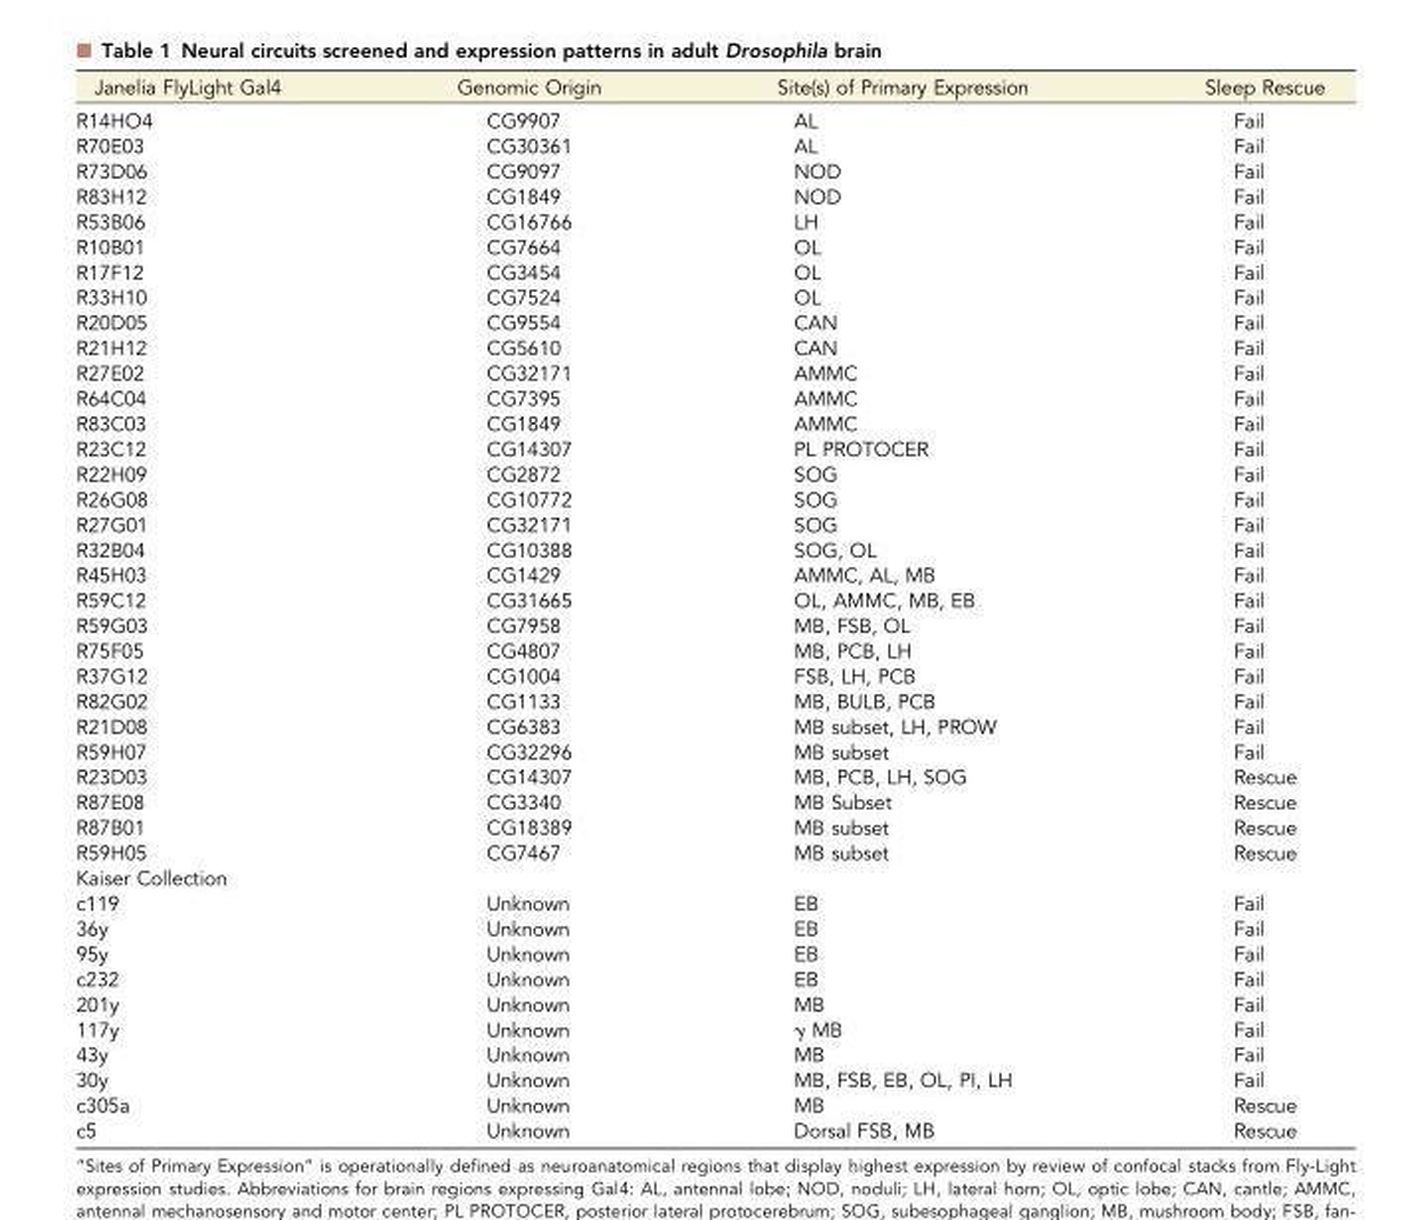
<table><thead><tr><td>Janelia FlyLight Gal4</td><td>Genomic Origin</td><td>Site(s) of Primary Expression</td><td>Sleep Rescue</td></tr></thead><tbody><tr><td>R14HO4</td><td>CG9907</td><td>AL</td><td>Fail</td></tr><tr><td>R70E03</td><td>CG30361</td><td>AL</td><td>Fail</td></tr><tr><td>R73D06</td><td>CG9097</td><td>NOD</td><td>Fail</td></tr><tr><td>R83H12</td><td>CG1849</td><td>NOD</td><td>Fail</td></tr><tr><td>R53B06</td><td>CG16766</td><td>LH</td><td>Fail</td></tr><tr><td>R10B01</td><td>CG7664</td><td>OL</td><td>Fail</td></tr><tr><td>R17F12</td><td>CG3454</td><td>OL</td><td>Fail</td></tr><tr><td>R33H10</td><td>CG7524</td><td>OL</td><td>Fail</td></tr><tr><td>R20D05</td><td>CG9554</td><td>CAN</td><td>Fail</td></tr><tr><td>R21H12</td><td>CG5610</td><td>CAN</td><td>Fail</td></tr><tr><td>R27E02</td><td>CG32171</td><td>AMMC</td><td>Fail</td></tr><tr><td>R64C04</td><td>CG7395</td><td>AMMC</td><td>Fail</td></tr><tr><td>R83C03</td><td>CG1849</td><td>AMMC</td><td>Fail</td></tr><tr><td>R23C12</td><td>CG14307</td><td>PL PROTOCER</td><td>Fail</td></tr><tr><td>R22H09</td><td>CG2872</td><td>SOG</td><td>Fail</td></tr><tr><td>R26G08</td><td>CG10772</td><td>SOG</td><td>Fail</td></tr><tr><td>R27G01</td><td>CG32171</td><td>SOG</td><td>Fail</td></tr><tr><td>R32B04</td><td>CG10388</td><td>SOG, OL</td><td>Fail</td></tr><tr><td>R45H03</td><td>CG1429</td><td>AMMC, AL, MB</td><td>Fail</td></tr><tr><td>R59C12</td><td>CG31665</td><td>OL, AMMC, MB, EB</td><td>Fail</td></tr><tr><td>R59G03</td><td>CG7958</td><td>MB, FSB, OL</td><td>Fail</td></tr><tr><td>R75F05</td><td>CG4807</td><td>MB, PCB, LH</td><td>Fail</td></tr><tr><td>R37G12</td><td>CG1004</td><td>FSB, LH, PCB</td><td>Fail</td></tr><tr><td>R82G02</td><td>CG1133</td><td>MB, BULB, PCB</td><td>Fail</td></tr><tr><td>R21D08</td><td>CG6383</td><td>MB subset, LH, PROW</td><td>Fail</td></tr><tr><td>R59H07</td><td>CG32296</td><td>MB subset</td><td>Fail</td></tr><tr><td>R23D03</td><td>CG14307</td><td>MB, PCB, LH, SOG</td><td>Rescue</td></tr><tr><td>R87E08</td><td>CG3340</td><td>MB Subset</td><td>Rescue</td></tr><tr><td>R87B01</td><td>CG18389</td><td>MB subset</td><td>Rescue</td></tr><tr><td>R59H05</td><td>CG7467</td><td>MB subset</td><td>Rescue</td></tr><tr><td colspan="4">Kaiser Collection</td></tr><tr><td>c119</td><td>Unknown</td><td>EB</td><td>Fail</td></tr><tr><td>36y</td><td>Unknown</td><td>EB</td><td>Fail</td></tr><tr><td>95y</td><td>Unknown</td><td>EB</td><td>Fail</td></tr><tr><td>c232</td><td>Unknown</td><td>EB</td><td>Fail</td></tr><tr><td>201y</td><td>Unknown</td><td>MB</td><td>Fail</td></tr><tr><td>117y</td><td>Unknown</td><td>γ MB</td><td>Fail</td></tr><tr><td>43y</td><td>Unknown</td><td>MB</td><td>Fail</td></tr><tr><td>30y</td><td>Unknown</td><td>MB, FSB, EB, OL, PI, LH</td><td>Fail</td></tr><tr><td>c305a</td><td>Unknown</td><td>MB</td><td>Rescue</td></tr><tr><td>c5</td><td>Unknown</td><td>Dorsal FSB, MB</td><td>Rescue</td></tr></tbody></table>